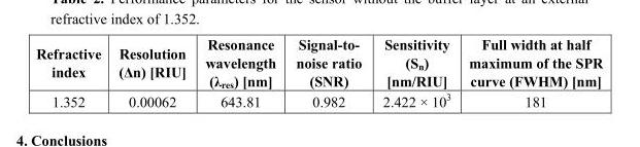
<table><thead><tr><td>Refractive index</td><td>Resolution (Δn) [RIU]</td><td>Resonance wavelength (λ<sub>res</sub>) [nm]</td><td>Signal-to- noise ratio (SNR)</td><td>Sensitivity (S<sub>n</sub>) [nm/RIU]</td><td>Full width at half maximum of the SPR curve (FWHM) [nm]</td></tr></thead><tbody><tr><td>1.352</td><td>0.00062</td><td>643.81</td><td>0.982</td><td>2.422 × 10<sup>3</sup></td><td>181</td></tr></tbody></table>